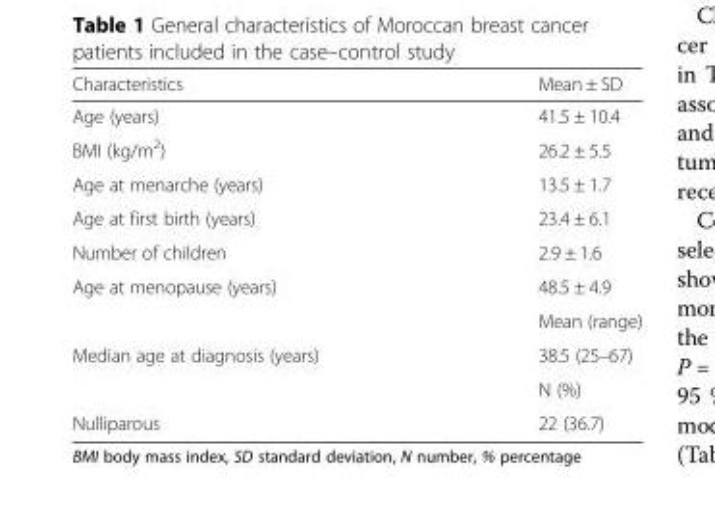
<table><thead><tr><td>Characteristics</td><td>Mean ± SD</td></tr></thead><tbody><tr><td>Age (years)</td><td>41.5 ± 10.4</td></tr><tr><td>BMI (kg/m<sup>2</sup>)</td><td>26.2 ± 5.5</td></tr><tr><td>Age at menarche (years)</td><td>13.5 ± 1.7</td></tr><tr><td>Age at first birth (years)</td><td>23.4 ± 6.1</td></tr><tr><td>Number of children</td><td>2.9 ± 1.6</td></tr><tr><td rowspan="2">Age at menopause (years)</td><td>48.5 ± 4.9</td></tr><tr><td>Mean (range)</td></tr><tr><td rowspan="2">Median age at diagnosis (years)</td><td>38.5 (25–67)</td></tr><tr><td>N (%)</td></tr><tr><td>Nulliparous</td><td>22 (36.7)</td></tr></tbody></table>